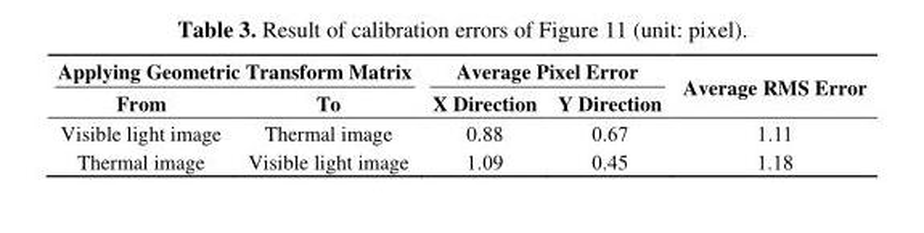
<table><thead><tr><td colspan="2">Applying Geometric Transform Matrix</td><td colspan="2">Average Pixel Error</td><td rowspan="2">Average RMS Error</td></tr><tr><td>From</td><td>To</td><td>X Direction</td><td>Y Direction</td></tr></thead><tbody><tr><td>Visible light image</td><td>Thermal image</td><td>0.88</td><td>0.67</td><td>1.11</td></tr><tr><td>Thermal image</td><td>Visible light image</td><td>1.09</td><td>0.45</td><td>1.18</td></tr></tbody></table>